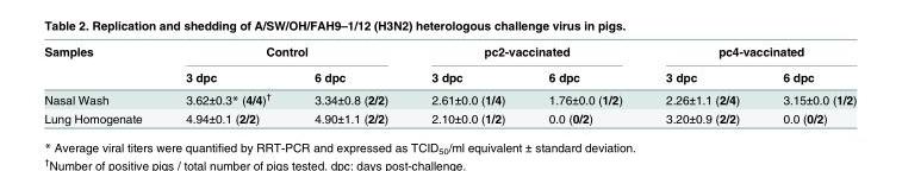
<table><thead><tr><td rowspan="2">Samples</td><td colspan="2">Control</td><td colspan="2">pc2-vaccinated</td><td colspan="2">pc4-vaccinated</td></tr><tr><td>3 dpc</td><td>6 dpc</td><td>3 dpc</td><td>6 dpc</td><td>3 dpc</td><td>6 dpc</td></tr></thead><tbody><tr><td>Nasal Wash</td><td>3.62±0.3* (4/4)<sup>†</sup></td><td>3.34±0.8 (2/2)</td><td>2.61±0.0 (1/4)</td><td>1.76±0.0 (1/2)</td><td>2.26±1.1 (2/4)</td><td>3.15±0.0 (1/2)</td></tr><tr><td>Lung Homogenate</td><td>4.94±0.1 (2/2)</td><td>4.90±1.1 (2/2)</td><td>2.10±0.0 (1/2)</td><td>0.0 (0/2)</td><td>3.20±0.9 (2/2)</td><td>0.0 (0/2)</td></tr></tbody></table>